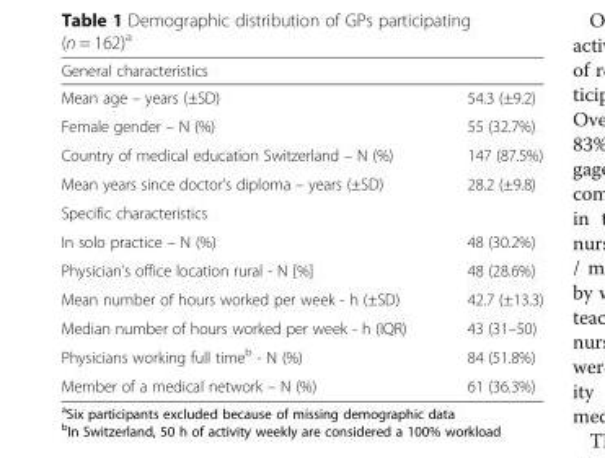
<table><thead><tr><td>General characteristics</td><td></td></tr></thead><tbody><tr><td>Mean age – years (±SD)</td><td>54.3 (±9.2)</td></tr><tr><td>Female gender – N (%)</td><td>55 (32.7%)</td></tr><tr><td>Country of medical education Switzerland – N (%)</td><td>147 (87.5%)</td></tr><tr><td>Mean years since doctor’s diploma – years (±SD)</td><td>28.2 (±9.8)</td></tr><tr><td colspan="2">Specific characteristics</td></tr><tr><td>In solo practice – N (%)</td><td>48 (30.2%)</td></tr><tr><td>Physician’s office location rural - N [%]</td><td>48 (28.6%)</td></tr><tr><td>Mean number of hours worked per week - h (±SD)</td><td>42.7 (±13.3)</td></tr><tr><td>Median number of hours worked per week - h (IQR)</td><td>43 (31–50)</td></tr><tr><td>Physicians working full time<sup>b</sup> - N (%)</td><td>84 (51.8%)</td></tr><tr><td>Member of a medical network – N (%)</td><td>61 (36.3%)</td></tr></tbody></table>